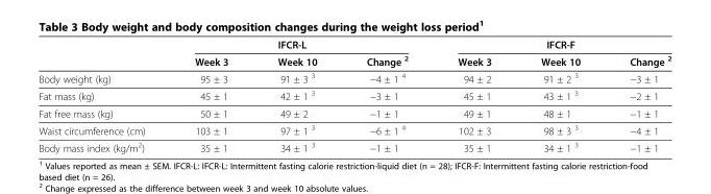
<table><thead><tr><td rowspan="2"></td><td rowspan="2">Week 3</td><td rowspan="2">IFCR-L Week 10</td><td rowspan="2">Change <sup>2</sup></td><td rowspan="2">Week 3</td><td rowspan="2">IFCR-F Week 10</td><td rowspan="2">Change <sup>2</sup></td></tr><tr></tr></thead><tbody><tr><td>Body weight (kg)</td><td>95 ± 3</td><td>91 ± 3 <sup>3</sup></td><td>−4 ± 1 <sup>4</sup></td><td>94 ± 2</td><td>91 ± 2 <sup>3</sup></td><td>−3 ± 1</td></tr><tr><td>Fat mass (kg)</td><td>45 ± 1</td><td>42 ± 1 <sup>3</sup></td><td>−3 ± 1</td><td>45 ± 1</td><td>43 ± 1 <sup>3</sup></td><td>−2 ± 1</td></tr><tr><td>Fat free mass (kg)</td><td>50 ± 1</td><td>49 ± 2</td><td>−1 ± 1</td><td>49 ± 1</td><td>48 ± 1</td><td>−1 ± 1</td></tr><tr><td>Waist circumference (cm)</td><td>103 ± 1</td><td>97 ± 1 <sup>3</sup></td><td>−6 ± 1 <sup>4</sup></td><td>102 ± 3</td><td>98 ± 3 <sup>3</sup></td><td>−4 ± 1</td></tr><tr><td>Body mass index (kg/m<sup>2</sup>)</td><td>35 ± 1</td><td>34 ± 1 <sup>3</sup></td><td>−1 ± 1</td><td>35 ± 1</td><td>34 ± 1 <sup>3</sup></td><td>−1 ± 1</td></tr></tbody></table>